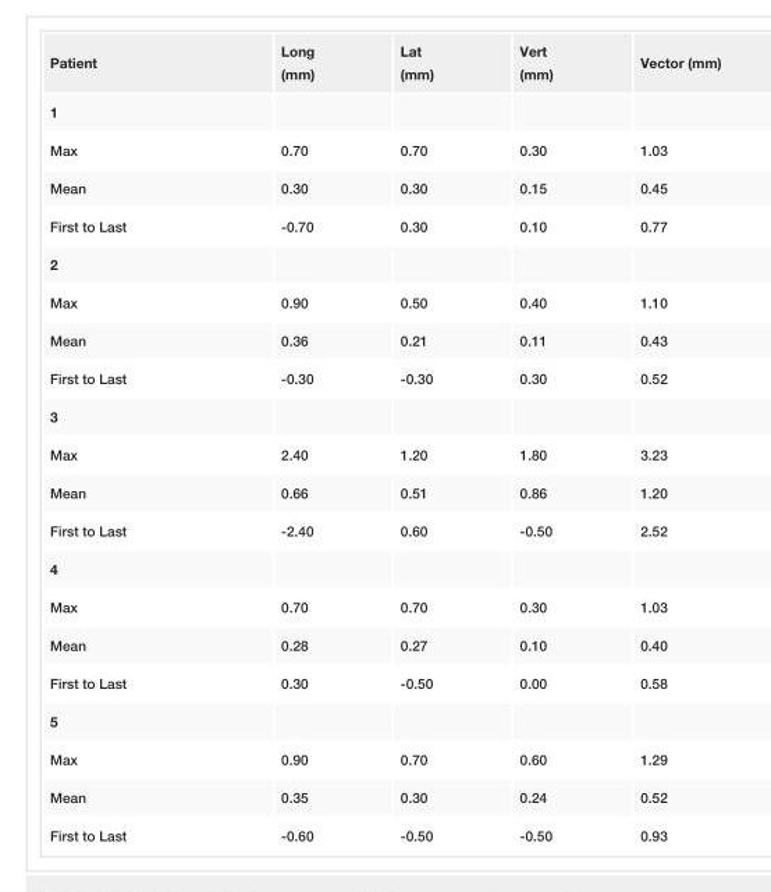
<table><tbody><tr><td>Patient</td><td>Long (mm)</td><td>Lat (mm)</td><td>Vert (mm)</td><td>Vector (mm)</td></tr><tr><td colspan="5">1</td></tr><tr><td>Max</td><td>0.70</td><td>0.70</td><td>0.30</td><td>1.03</td></tr><tr><td>Mean</td><td>0.30</td><td>0.30</td><td>0.15</td><td>0.45</td></tr><tr><td>First to Last</td><td>-0.70</td><td>0.30</td><td>0.10</td><td>0.77</td></tr><tr><td colspan="5">2</td></tr><tr><td>Max</td><td>0.90</td><td>0.50</td><td>0.40</td><td>1.10</td></tr><tr><td>Mean</td><td>0.36</td><td>0.21</td><td>0.11</td><td>0.43</td></tr><tr><td>First to Last</td><td>-0.30</td><td>-0.30</td><td>0.30</td><td>0.52</td></tr><tr><td colspan="5">3</td></tr><tr><td>Max</td><td>2.40</td><td>1.20</td><td>1.80</td><td>3.23</td></tr><tr><td>Mean</td><td>0.66</td><td>0.51</td><td>0.86</td><td>1.20</td></tr><tr><td>First to Last</td><td>-2.40</td><td>0.60</td><td>-0.50</td><td>2.52</td></tr><tr><td colspan="5">4</td></tr><tr><td>Max</td><td>0.70</td><td>0.70</td><td>0.30</td><td>1.03</td></tr><tr><td>Mean</td><td>0.28</td><td>0.27</td><td>0.10</td><td>0.40</td></tr><tr><td>First to Last</td><td>0.30</td><td>-0.50</td><td>0.00</td><td>0.58</td></tr><tr><td colspan="5">5</td></tr><tr><td>Max</td><td>0.90</td><td>0.70</td><td>0.60</td><td>1.29</td></tr><tr><td>Mean</td><td>0.35</td><td>0.30</td><td>0.24</td><td>0.52</td></tr><tr><td>First to Last</td><td>-0.60</td><td>-0.50</td><td>-0.50</td><td>0.93</td></tr></tbody></table>